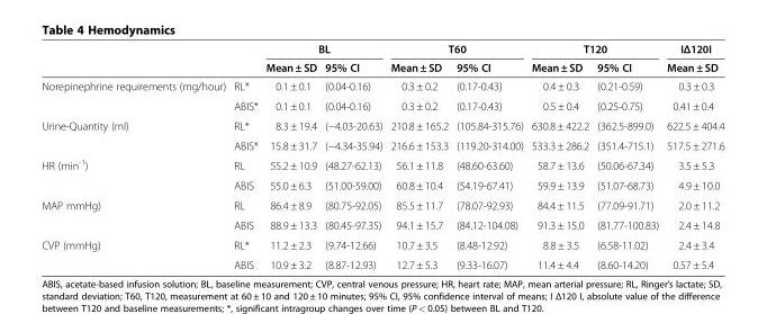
<table><thead><tr><td rowspan="2"></td><td rowspan="2"></td><td colspan="2">BL</td><td colspan="2">T60</td><td colspan="2">T120</td><td rowspan="2">ІΔ120І Mean ± SD</td></tr><tr><td>Mean ± SD</td><td>95% CI</td><td>Mean ± SD</td><td>95% CI</td><td>Mean ± SD</td><td>95% CI</td></tr></thead><tbody><tr><td rowspan="2">Norepinephrine requirements (mg/hour)</td><td>RL*</td><td>0.1 ± 0.1</td><td>(0.04-0.16)</td><td>0.3 ± 0.2</td><td>(0.17-0.43)</td><td>0.4 ± 0.3</td><td>(0.21-0.59)</td><td>0.3 ± 0.3</td></tr><tr><td>ABIS*</td><td>0.1 ± 0.1</td><td>(0.04-0.16)</td><td>0.3 ± 0.2</td><td>(0.17-0.43)</td><td>0.5 ± 0.4</td><td>(0.25-0.75)</td><td>0.41 ± 0.4</td></tr><tr><td rowspan="2">Urine-Quantity (ml)</td><td>RL*</td><td>8.3 ± 19.4</td><td>(−4.03-20.63)</td><td>210.8 ± 165.2</td><td>(105.84-315.76)</td><td>630.8 ± 422.2</td><td>(362.5-899.0)</td><td>622.5 ± 404.4</td></tr><tr><td>ABIS*</td><td>15.8 ± 31.7</td><td>(−4.34-35.94)</td><td>216.6 ± 153.3</td><td>(119.20-314.00)</td><td>533.3 ± 286.2</td><td>(351.4-715.1)</td><td>517.5 ± 271.6</td></tr><tr><td rowspan="2">HR (min<sup>-1</sup>)</td><td>RL</td><td>55.2 ± 10.9</td><td>(48.27-62.13)</td><td>56.1 ± 11.8</td><td>(48.60-63.60)</td><td>58.7 ± 13.6</td><td>(50.06-67.34)</td><td>3.5 ± 5.3</td></tr><tr><td>ABIS</td><td>55.0 ± 6.3</td><td>(51.00-59.00)</td><td>60.8 ± 10.4</td><td>(54.19-67.41)</td><td>59.9 ± 13.9</td><td>(51.07-68.73)</td><td>4.9 ± 10.0</td></tr><tr><td rowspan="2">MAP mmHg)</td><td>RL</td><td>86.4 ± 8.9</td><td>(80.75-92.05)</td><td>85.5 ± 11.7</td><td>(78.07-92.93)</td><td>84.4 ± 11.5</td><td>(77.09-91.71)</td><td>2.0 ± 11.2</td></tr><tr><td>ABIS</td><td>88.9 ± 13.3</td><td>(80.45-97.35)</td><td>94.1 ± 15.7</td><td>(84.12-104.08)</td><td>91.3 ± 15.0</td><td>(81.77-100.83)</td><td>2.4 ± 14.8</td></tr><tr><td rowspan="2">CVP (mmHg)</td><td>RL*</td><td>11.2 ± 2.3</td><td>(9.74-12.66)</td><td>10.7 ± 3.5</td><td>(8.48-12.92)</td><td>8.8 ± 3.5</td><td>(6.58-11.02)</td><td>2.4 ± 3.4</td></tr><tr><td>ABIS</td><td>10.9 ± 3.2</td><td>(8.87-12.93)</td><td>12.7 ± 5.3</td><td>(9.33-16.07)</td><td>11.4 ± 4.4</td><td>(8.60-14.20)</td><td>0.57 ± 5.4</td></tr></tbody></table>